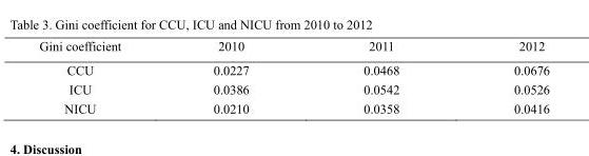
<table><thead><tr><td>Gini coefficient</td><td>2010</td><td>2011</td><td>2012</td></tr></thead><tbody><tr><td>CCU</td><td>0.0227</td><td>0.0468</td><td>0.0676</td></tr><tr><td>ICU</td><td>0.0386</td><td>0.0542</td><td>0.0526</td></tr><tr><td>NICU</td><td>0.0210</td><td>0.0358</td><td>0.0416</td></tr></tbody></table>